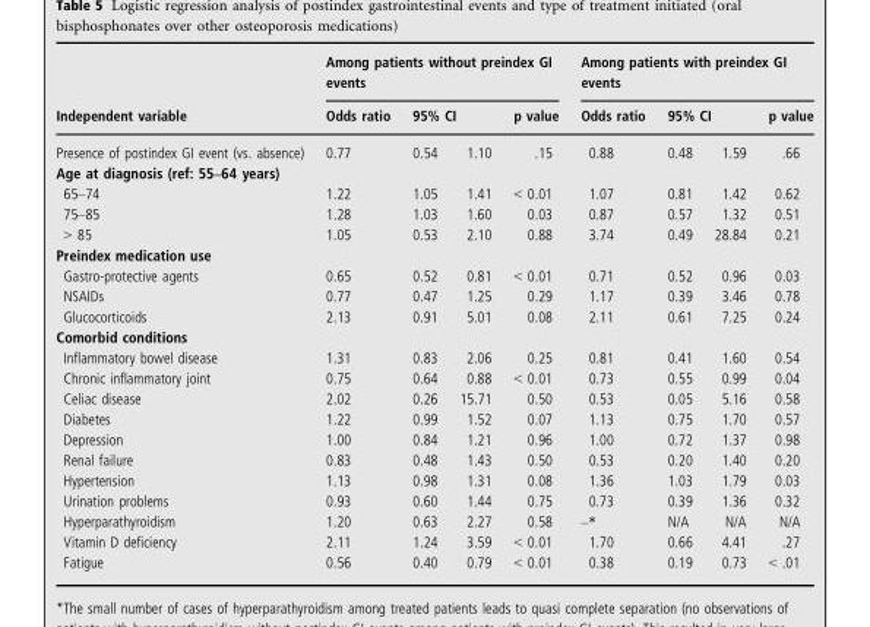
<table><thead><tr><td rowspan="3">Independent variable Presence of postindex GI event (vs. absence)</td><td colspan="4">Among patients without preindex GI events</td><td colspan="4">Among patients with preindex GI events</td></tr><tr><td rowspan="2">Odds ratio 0.77</td><td colspan="2">95% CI</td><td rowspan="2">p value .15</td><td rowspan="2">Odds ratio 0.88</td><td colspan="2">95% CI</td><td rowspan="2">p value .66</td></tr><tr><td>0.54</td><td>1.10</td><td>0.48</td><td>1.59</td></tr></thead><tbody><tr><td colspan="9">Age at diagnosis (ref: 55–64 years)</td></tr><tr><td>65–74</td><td>1.22</td><td>1.05</td><td>1.41</td><td>&lt; 0.01</td><td>1.07</td><td>0.81</td><td>1.42</td><td>0.62</td></tr><tr><td>75–85</td><td>1.28</td><td>1.03</td><td>1.60</td><td>0.03</td><td>0.87</td><td>0.57</td><td>1.32</td><td>0.51</td></tr><tr><td>&gt; 85</td><td>1.05</td><td>0.53</td><td>2.10</td><td>0.88</td><td>3.74</td><td>0.49</td><td>28.84</td><td>0.21</td></tr><tr><td colspan="9">Preindex medication use</td></tr><tr><td>Gastro-protective agents</td><td>0.65</td><td>0.52</td><td>0.81</td><td>&lt; 0.01</td><td>0.71</td><td>0.52</td><td>0.96</td><td>0.03</td></tr><tr><td>NSAIDs</td><td>0.77</td><td>0.47</td><td>1.25</td><td>0.29</td><td>1.17</td><td>0.39</td><td>3.46</td><td>0.78</td></tr><tr><td>Glucocorticoids</td><td>2.13</td><td>0.91</td><td>5.01</td><td>0.08</td><td>2.11</td><td>0.61</td><td>7.25</td><td>0.24</td></tr><tr><td colspan="9">Comorbid conditions</td></tr><tr><td>Inflammatory bowel disease</td><td>1.31</td><td>0.83</td><td>2.06</td><td>0.25</td><td>0.81</td><td>0.41</td><td>1.60</td><td>0.54</td></tr><tr><td>Chronic inflammatory joint</td><td>0.75</td><td>0.64</td><td>0.88</td><td>&lt; 0.01</td><td>0.73</td><td>0.55</td><td>0.99</td><td>0.04</td></tr><tr><td>Celiac disease</td><td>2.02</td><td>0.26</td><td>15.71</td><td>0.50</td><td>0.53</td><td>0.05</td><td>5.16</td><td>0.58</td></tr><tr><td>Diabetes</td><td>1.22</td><td>0.99</td><td>1.52</td><td>0.07</td><td>1.13</td><td>0.75</td><td>1.70</td><td>0.57</td></tr><tr><td>Depression</td><td>1.00</td><td>0.84</td><td>1.21</td><td>0.96</td><td>1.00</td><td>0.72</td><td>1.37</td><td>0.98</td></tr><tr><td>Renal failure</td><td>0.83</td><td>0.48</td><td>1.43</td><td>0.50</td><td>0.53</td><td>0.20</td><td>1.40</td><td>0.20</td></tr><tr><td>Hypertension</td><td>1.13</td><td>0.98</td><td>1.31</td><td>0.08</td><td>1.36</td><td>1.03</td><td>1.79</td><td>0.03</td></tr><tr><td>Urination problems</td><td>0.93</td><td>0.60</td><td>1.44</td><td>0.75</td><td>0.73</td><td>0.39</td><td>1.36</td><td>0.32</td></tr><tr><td>Hyperparathyroidism</td><td>1.20</td><td>0.63</td><td>2.27</td><td>0.58</td><td>–*</td><td>N/A</td><td>N/A</td><td>N/A</td></tr><tr><td>Vitamin D deficiency</td><td>2.11</td><td>1.24</td><td>3.59</td><td>&lt; 0.01</td><td>1.70</td><td>0.66</td><td>4.41</td><td>.27</td></tr><tr><td>Fatigue</td><td>0.56</td><td>0.40</td><td>0.79</td><td>&lt; 0.01</td><td>0.38</td><td>0.19</td><td>0.73</td><td>&lt; .01</td></tr></tbody></table>